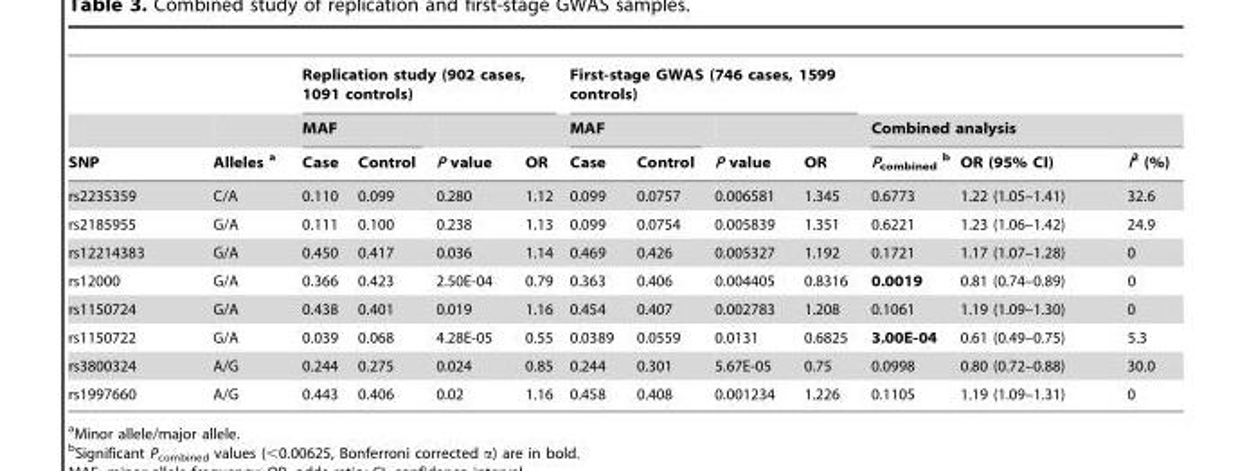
<table><thead><tr><td rowspan="3">SNP</td><td rowspan="3">Alleles a</td><td colspan="4">Replication study (902 cases, 1091 controls)</td><td colspan="4">First-stage GWAS (746 cases, 1599 controls)</td><td></td><td></td><td></td></tr><tr><td colspan="2">MAF</td><td rowspan="2">P value</td><td rowspan="2">OR</td><td colspan="2">MAF</td><td rowspan="2">P value</td><td rowspan="2">OR</td><td colspan="3">Combined analysis</td></tr><tr><td>Case</td><td>Control</td><td>Case</td><td>Control</td><td>P<sub>combined</sub> b</td><td>OR (95% CI)</td><td>I<sup>2</sup> (%)</td></tr></thead><tbody><tr><td>rs2235359</td><td>C/A</td><td>0.110</td><td>0.099</td><td>0.280</td><td>1.12</td><td>0.099</td><td>0.0757</td><td>0.006581</td><td>1.345</td><td>0.6773</td><td>1.22 (1.05–1.41)</td><td>32.6</td></tr><tr><td>rs2185955</td><td>G/A</td><td>0.111</td><td>0.100</td><td>0.238</td><td>1.13</td><td>0.099</td><td>0.0754</td><td>0.005839</td><td>1.351</td><td>0.6221</td><td>1.23 (1.06–1.42)</td><td>24.9</td></tr><tr><td>rs12214383</td><td>G/A</td><td>0.450</td><td>0.417</td><td>0.036</td><td>1.14</td><td>0.469</td><td>0.426</td><td>0.005327</td><td>1.192</td><td>0.1721</td><td>1.17 (1.07–1.28)</td><td>0</td></tr><tr><td>rs12000</td><td>G/A</td><td>0.366</td><td>0.423</td><td>2.50E-04</td><td>0.79</td><td>0.363</td><td>0.406</td><td>0.004405</td><td>0.8316</td><td>0.0019</td><td>0.81 (0.74–0.89)</td><td>0</td></tr><tr><td>rs1150724</td><td>G/A</td><td>0.438</td><td>0.401</td><td>0.019</td><td>1.16</td><td>0.454</td><td>0.407</td><td>0.002783</td><td>1.208</td><td>0.1061</td><td>1.19 (1.09–1.30)</td><td>0</td></tr><tr><td>rs1150722</td><td>G/A</td><td>0.039</td><td>0.068</td><td>4.28E-05</td><td>0.55</td><td>0.0389</td><td>0.0559</td><td>0.0131</td><td>0.6825</td><td>3.00E-04</td><td>0.61 (0.49–0.75)</td><td>5.3</td></tr><tr><td>rs3800324</td><td>A/G</td><td>0.244</td><td>0.275</td><td>0.024</td><td>0.85</td><td>0.244</td><td>0.301</td><td>5.67E-05</td><td>0.75</td><td>0.0998</td><td>0.80 (0.72–0.88)</td><td>30.0</td></tr><tr><td>rs1997660</td><td>A/G</td><td>0.443</td><td>0.406</td><td>0.02</td><td>1.16</td><td>0.458</td><td>0.408</td><td>0.001234</td><td>1.226</td><td>0.1105</td><td>1.19 (1.09–1.31)</td><td>0</td></tr></tbody></table>